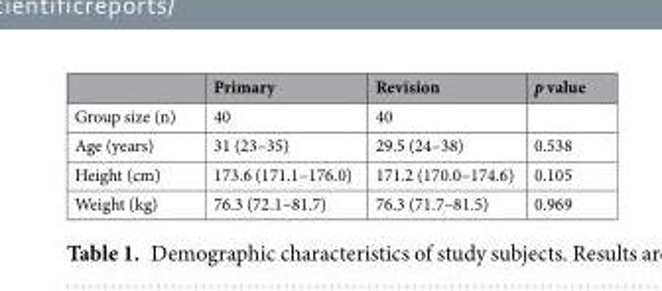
<table><thead><tr><td></td><td>Primary</td><td>Revision</td><td>p value</td></tr></thead><tbody><tr><td>Group size (n)</td><td>40</td><td>40</td><td></td></tr><tr><td>Age (years)</td><td>31 (23–35)</td><td>29.5 (24–38)</td><td>0.538</td></tr><tr><td>Height (cm)</td><td>173.6 (171.1–176.0)</td><td>171.2 (170.0–174.6)</td><td>0.105</td></tr><tr><td>Weight (kg)</td><td>76.3 (72.1–81.7)</td><td>76.3 (71.7–81.5)</td><td>0.969</td></tr></tbody></table>